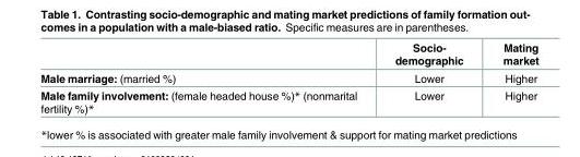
<table><thead><tr><td></td><td>Socio- demographic</td><td>Mating market</td></tr></thead><tbody><tr><td>Male marriage: (married %)</td><td>Lower</td><td>Higher</td></tr><tr><td>Male family involvement: (female headed house %)* (nonmarital fertility %)*</td><td>Lower</td><td>Higher</td></tr></tbody></table>